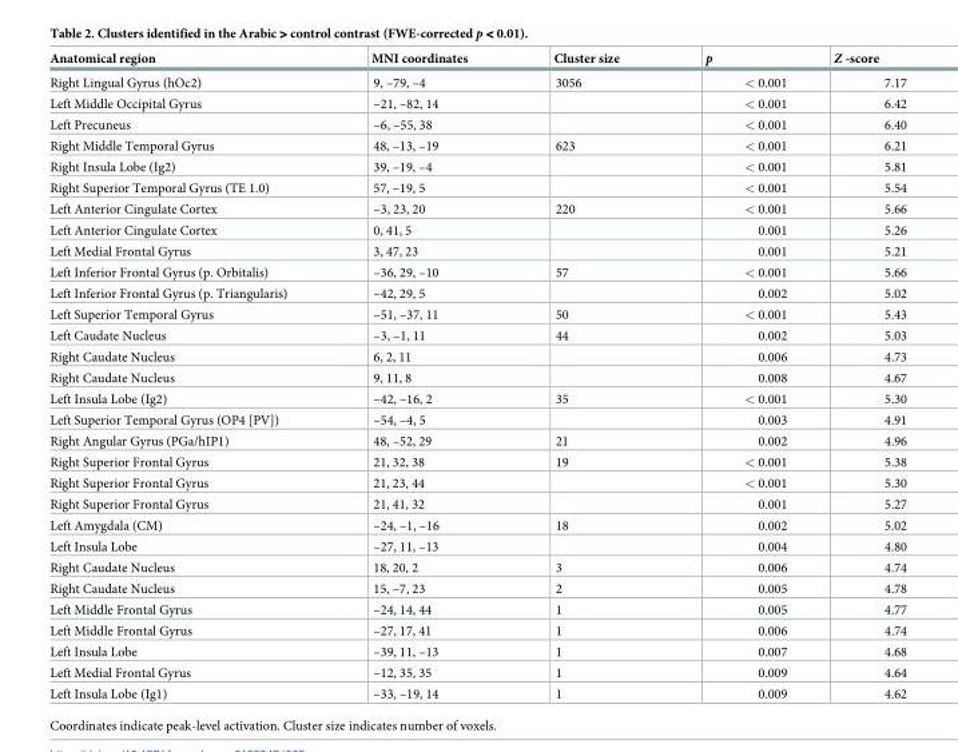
<table><thead><tr><td>Anatomical region</td><td>MNI coordinates</td><td>Cluster size</td><td>p</td><td>Z -score</td></tr></thead><tbody><tr><td>Right Lingual Gyrus (hOc2)</td><td>9, –79, –4</td><td>3056</td><td>&lt; 0.001</td><td>7.17</td></tr><tr><td>Left Middle Occipital Gyrus</td><td>–21, –82, 14</td><td></td><td>&lt; 0.001</td><td>6.42</td></tr><tr><td>Left Precuneus</td><td>–6, –55, 38</td><td></td><td>&lt; 0.001</td><td>6.40</td></tr><tr><td>Right Middle Temporal Gyrus</td><td>48, –13, –19</td><td>623</td><td>&lt; 0.001</td><td>6.21</td></tr><tr><td>Right Insula Lobe (Ig2)</td><td>39, –19, –4</td><td></td><td>&lt; 0.001</td><td>5.81</td></tr><tr><td>Right Superior Temporal Gyrus (TE 1.0)</td><td>57, –19, 5</td><td></td><td>&lt; 0.001</td><td>5.54</td></tr><tr><td>Left Anterior Cingulate Cortex</td><td>–3, 23, 20</td><td>220</td><td>&lt; 0.001</td><td>5.66</td></tr><tr><td>Left Anterior Cingulate Cortex</td><td>0, 41, 5</td><td></td><td>0.001</td><td>5.26</td></tr><tr><td>Left Medial Frontal Gyrus</td><td>3, 47, 23</td><td></td><td>0.001</td><td>5.21</td></tr><tr><td>Left Inferior Frontal Gyrus (p. Orbitalis)</td><td>–36, 29, –10</td><td>57</td><td>&lt; 0.001</td><td>5.66</td></tr><tr><td>Left Inferior Frontal Gyrus (p. Triangularis)</td><td>–42, 29, 5</td><td></td><td>0.002</td><td>5.02</td></tr><tr><td>Left Superior Temporal Gyrus</td><td>–51, –37, 11</td><td>50</td><td>&lt; 0.001</td><td>5.43</td></tr><tr><td>Left Caudate Nucleus</td><td>–3, –1, 11</td><td>44</td><td>0.002</td><td>5.03</td></tr><tr><td>Right Caudate Nucleus</td><td>6, 2, 11</td><td></td><td>0.006</td><td>4.73</td></tr><tr><td>Right Caudate Nucleus</td><td>9, 11, 8</td><td></td><td>0.008</td><td>4.67</td></tr><tr><td>Left Insula Lobe (Ig2)</td><td>–42, –16, 2</td><td>35</td><td>&lt; 0.001</td><td>5.30</td></tr><tr><td>Left Superior Temporal Gyrus (OP4 [PV])</td><td>–54, –4, 5</td><td></td><td>0.003</td><td>4.91</td></tr><tr><td>Right Angular Gyrus (PGa/hIP1)</td><td>48, –52, 29</td><td>21</td><td>0.002</td><td>4.96</td></tr><tr><td>Right Superior Frontal Gyrus</td><td>21, 32, 38</td><td>19</td><td>&lt; 0.001</td><td>5.38</td></tr><tr><td>Right Superior Frontal Gyrus</td><td>21, 23, 44</td><td></td><td>&lt; 0.001</td><td>5.30</td></tr><tr><td>Right Superior Frontal Gyrus</td><td>21, 41, 32</td><td></td><td>0.001</td><td>5.27</td></tr><tr><td>Left Amygdala (CM)</td><td>–24, –1, –16</td><td>18</td><td>0.002</td><td>5.02</td></tr><tr><td>Left Insula Lobe</td><td>–27, 11, –13</td><td></td><td>0.004</td><td>4.80</td></tr><tr><td>Right Caudate Nucleus</td><td>18, 20, 2</td><td>3</td><td>0.006</td><td>4.74</td></tr><tr><td>Right Caudate Nucleus</td><td>15, –7, 23</td><td>2</td><td>0.005</td><td>4.78</td></tr><tr><td>Left Middle Frontal Gyrus</td><td>–24, 14, 44</td><td>1</td><td>0.005</td><td>4.77</td></tr><tr><td>Left Middle Frontal Gyrus</td><td>–27, 17, 41</td><td>1</td><td>0.006</td><td>4.74</td></tr><tr><td>Left Insula Lobe</td><td>–39, 11, –13</td><td>1</td><td>0.007</td><td>4.68</td></tr><tr><td>Left Medial Frontal Gyrus</td><td>–12, 35, 35</td><td>1</td><td>0.009</td><td>4.64</td></tr><tr><td>Left Insula Lobe (Ig1)</td><td>–33, –19, 14</td><td>1</td><td>0.009</td><td>4.62</td></tr></tbody></table>